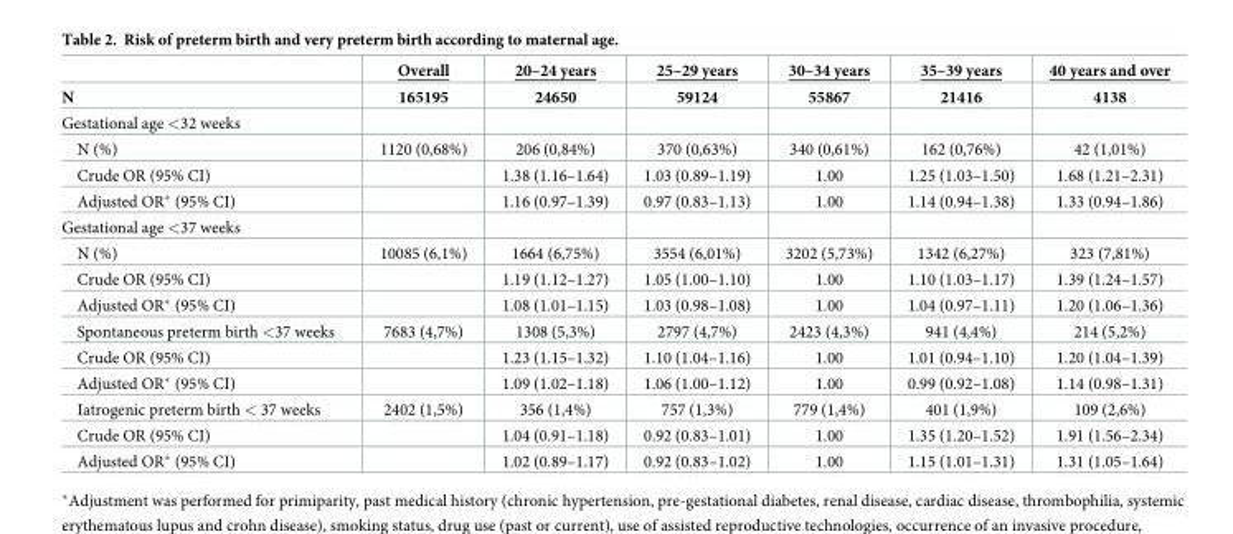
<table><thead><tr><td rowspan="2">N</td><td rowspan="2">Overall 165195</td><td rowspan="2">20–24 years 24650</td><td rowspan="2">25–29 years 59124</td><td rowspan="2">30–34 years 55867</td><td rowspan="2">35–39 years 21416</td><td rowspan="2">40 years and over 4138</td></tr><tr></tr></thead><tbody><tr><td colspan="7">Gestational age &lt;32 weeks</td></tr><tr><td>N (%)</td><td>1120 (0,68%)</td><td>206 (0,84%)</td><td>370 (0,63%)</td><td>340 (0,61%)</td><td>162 (0,76%)</td><td>42 (1,01%)</td></tr><tr><td>Crude OR (95% CI)</td><td></td><td>1.38 (1.16–1.64)</td><td>1.03 (0.89–1.19)</td><td>1.00</td><td>1.25 (1.03–1.50)</td><td>1.68 (1.21–2.31)</td></tr><tr><td>Adjusted OR* (95% CI)</td><td></td><td>1.16 (0.97–1.39)</td><td>0.97 (0.83–1.13)</td><td>1.00</td><td>1.14 (0.94–1.38)</td><td>1.33 (0.94–1.86)</td></tr><tr><td colspan="7">Gestational age &lt;37 weeks</td></tr><tr><td>N (%)</td><td>10085 (6,1%)</td><td>1664 (6,75%)</td><td>3554 (6,01%)</td><td>3202 (5,73%)</td><td>1342 (6,27%)</td><td>323 (7,81%)</td></tr><tr><td>Crude OR (95% CI)</td><td></td><td>1.19 (1.12–1.27)</td><td>1.05 (1.00–1.10)</td><td>1.00</td><td>1.10 (1.03–1.17)</td><td>1.39 (1.24–1.57)</td></tr><tr><td>Adjusted OR* (95% CI)</td><td></td><td>1.08 (1.01–1.15)</td><td>1.03 (0.98–1.08)</td><td>1.00</td><td>1.04 (0.97–1.11)</td><td>1.20 (1.06–1.36)</td></tr><tr><td>Spontaneous preterm birth &lt;37 weeks</td><td>7683 (4,7%)</td><td>1308 (5,3%)</td><td>2797 (4,7%)</td><td>2423 (4,3%)</td><td>941 (4,4%)</td><td>214 (5,2%)</td></tr><tr><td>Crude OR (95% CI)</td><td></td><td>1.23 (1.15–1.32)</td><td>1.10 (1.04–1.16)</td><td>1.00</td><td>1.01 (0.94–1.10)</td><td>1.20 (1.04–1.39)</td></tr><tr><td>Adjusted OR* (95% CI)</td><td></td><td>1.09 (1.02–1.18)</td><td>1.06 (1.00–1.12)</td><td>1.00</td><td>0.99 (0.92–1.08)</td><td>1.14 (0.98–1.31)</td></tr><tr><td>Iatrogenic preterm birth &lt; 37 weeks</td><td>2402 (1,5%)</td><td>356 (1,4%)</td><td>757 (1,3%)</td><td>779 (1,4%)</td><td>401 (1,9%)</td><td>109 (2,6%)</td></tr><tr><td>Crude OR (95% CI)</td><td></td><td>1.04 (0.91–1.18)</td><td>0.92 (0.83–1.01)</td><td>1.00</td><td>1.35 (1.20–1.52)</td><td>1.91 (1.56–2.34)</td></tr><tr><td>Adjusted OR* (95% CI)</td><td></td><td>1.02 (0.89–1.17)</td><td>0.92 (0.83–1.02)</td><td>1.00</td><td>1.15 (1.01–1.31)</td><td>1.31 (1.05–1.64)</td></tr></tbody></table>